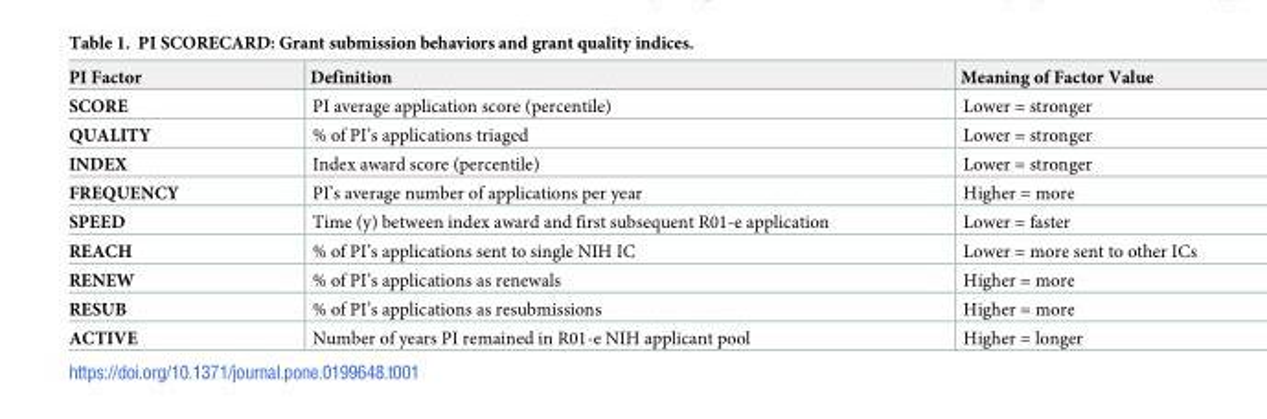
<table><thead><tr><td>PI Factor</td><td>Definition</td><td>Meaning of Factor Value</td></tr></thead><tbody><tr><td>SCORE</td><td>PI average application score (percentile)</td><td>Lower = stronger</td></tr><tr><td>QUALITY</td><td>% of PI’s applications triaged</td><td>Lower = stronger</td></tr><tr><td>INDEX</td><td>Index award score (percentile)</td><td>Lower = stronger</td></tr><tr><td>FREQUENCY</td><td>PI’s average number of applications per year</td><td>Higher = more</td></tr><tr><td>SPEED</td><td>Time (y) between index award and first subsequent R01-e application</td><td>Lower = faster</td></tr><tr><td>REACH</td><td>% of PI’s applications sent to single NIH IC</td><td>Lower = more sent to other ICs</td></tr><tr><td>RENEW</td><td>% of PI’s applications as renewals</td><td>Higher = more</td></tr><tr><td>RESUB</td><td>% of PI’s applications as resubmissions</td><td>Higher = more</td></tr><tr><td>ACTIVE</td><td>Number of years PI remained in R01-e NIH applicant pool</td><td>Higher = longer</td></tr></tbody></table>